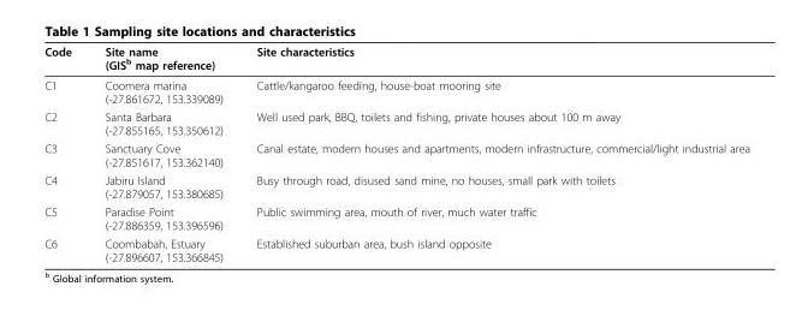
<table><thead><tr><td>Code</td><td>Site name (GIS<sup>b</sup> map reference)</td><td>Site characteristics</td></tr></thead><tbody><tr><td>C1</td><td>Coomera marina (-27.861672, 153.339089)</td><td>Cattle/kangaroo feeding, house-boat mooring site</td></tr><tr><td>C2</td><td>Santa Barbara (-27.855165, 153.350612)</td><td>Well used park, BBQ, toilets and fishing, private houses about 100 m away</td></tr><tr><td>C3</td><td>Sanctuary Cove (-27.851617, 153.362140)</td><td>Canal estate, modern houses and apartments, modern infrastructure, commercial/light industrial area</td></tr><tr><td>C4</td><td>Jabiru Island (-27.879057, 153.380685)</td><td>Busy through road, disused sand mine, no houses, small park with toilets</td></tr><tr><td>C5</td><td>Paradise Point (-27.886359, 153.396596)</td><td>Public swimming area, mouth of river, much water traffic</td></tr><tr><td>C6</td><td>Coombabah, Estuary (-27.896607, 153.366845)</td><td>Established suburban area, bush island opposite</td></tr></tbody></table>